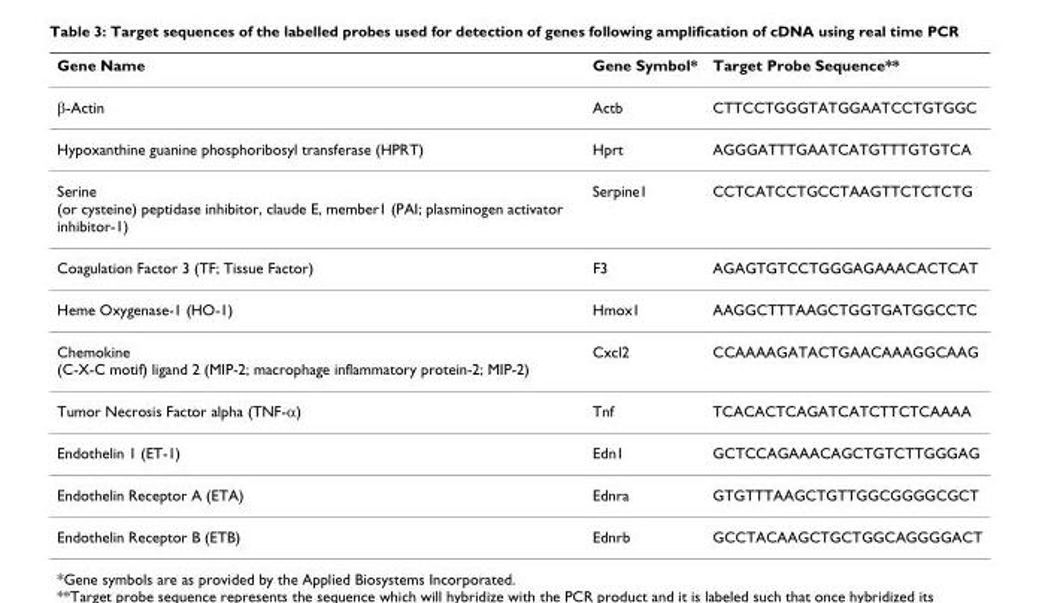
<table><thead><tr><td>Gene Name</td><td>Gene Symbol*</td><td>Target Probe Sequence**</td></tr></thead><tbody><tr><td>β-Actin</td><td>Actb</td><td>CTTCCTGGGTATGGAATCCTGTGGC</td></tr><tr><td>Hypoxanthine guanine phosphoribosyl transferase (HPRT)</td><td>Hprt</td><td>AGGGATTTGAATCATGTTTGTGTCA</td></tr><tr><td>Serine (or cysteine) peptidase inhibitor, claude E, member1 (PAI; plasminogen activator inhibitor-1)</td><td>Serpine1</td><td>CCTCATCCTGCCTAAGTTCTCTCTG</td></tr><tr><td>Coagulation Factor 3 (TF; Tissue Factor)</td><td>F3</td><td>AGAGTGTCCTGGGAGAAACACTCAT</td></tr><tr><td>Heme Oxygenase-1 (HO-1)</td><td>Hmox1</td><td>AAGGCTTTAAGCTGGTGATGGCCTC</td></tr><tr><td>Chemokine (C-X-C motif) ligand 2 (MIP-2; macrophage inflammatory protein-2; MIP-2)</td><td>Cxcl2</td><td>CCAAAAGATACTGAACAAAGGCAAG</td></tr><tr><td>Tumor Necrosis Factor alpha (TNF-α)</td><td>Tnf</td><td>TCACACTCAGATCATCTTCTCAAAA</td></tr><tr><td>Endothelin 1 (ET-1)</td><td>Edn1</td><td>GCTCCAGAAACAGCTGTCTTGGGAG</td></tr><tr><td>Endothelin Receptor A (ETA)</td><td>Ednra</td><td>GTGTTTAAGCTGTTGGCGGGGCGCT</td></tr><tr><td>Endothelin Receptor B (ETB)</td><td>Ednrb</td><td>GCCTACAAGCTGCTGGCAGGGGACT</td></tr></tbody></table>